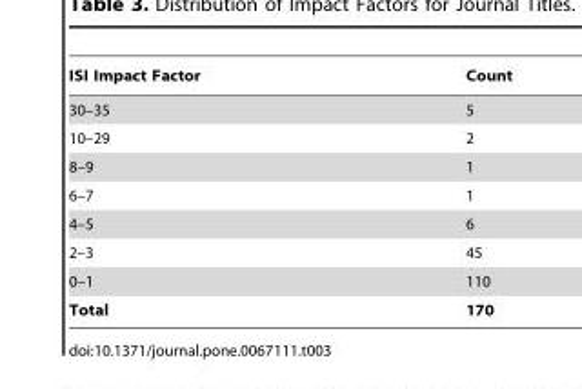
<table><thead><tr><td>ISI Impact Factor</td><td>Count</td></tr></thead><tbody><tr><td>30–35</td><td>5</td></tr><tr><td>10–29</td><td>2</td></tr><tr><td>8–9</td><td>1</td></tr><tr><td>6–7</td><td>1</td></tr><tr><td>4–5</td><td>6</td></tr><tr><td>2–3</td><td>45</td></tr><tr><td>0–1</td><td>110</td></tr><tr><td>Total</td><td>170</td></tr></tbody></table>